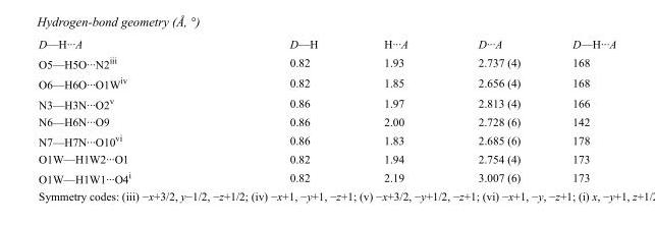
<table><tbody><tr><td>D—H···A</td><td>D—H</td><td>H···A</td><td>D···A</td><td>D—H···A</td></tr><tr><td>O5—H5O···N2<sup>iii</sup></td><td>0.82</td><td>1.93</td><td>2.737 (4)</td><td>168</td></tr><tr><td>O6—H6O···O1W<sup>iv</sup></td><td>0.82</td><td>1.85</td><td>2.656 (4)</td><td>168</td></tr><tr><td>N3—H3N···O2<sup>v</sup></td><td>0.86</td><td>1.97</td><td>2.813 (4)</td><td>166</td></tr><tr><td>N6—H6N···O9</td><td>0.86</td><td>2.00</td><td>2.728 (6)</td><td>142</td></tr><tr><td>N7—H7N···O10<sup>vi</sup></td><td>0.86</td><td>1.83</td><td>2.685 (6)</td><td>178</td></tr><tr><td>O1W—H1W2···O1</td><td>0.82</td><td>1.94</td><td>2.754 (4)</td><td>173</td></tr><tr><td>O1W—H1W1···O4<sup>i</sup></td><td>0.82</td><td>2.19</td><td>3.007 (6)</td><td>173</td></tr></tbody></table>